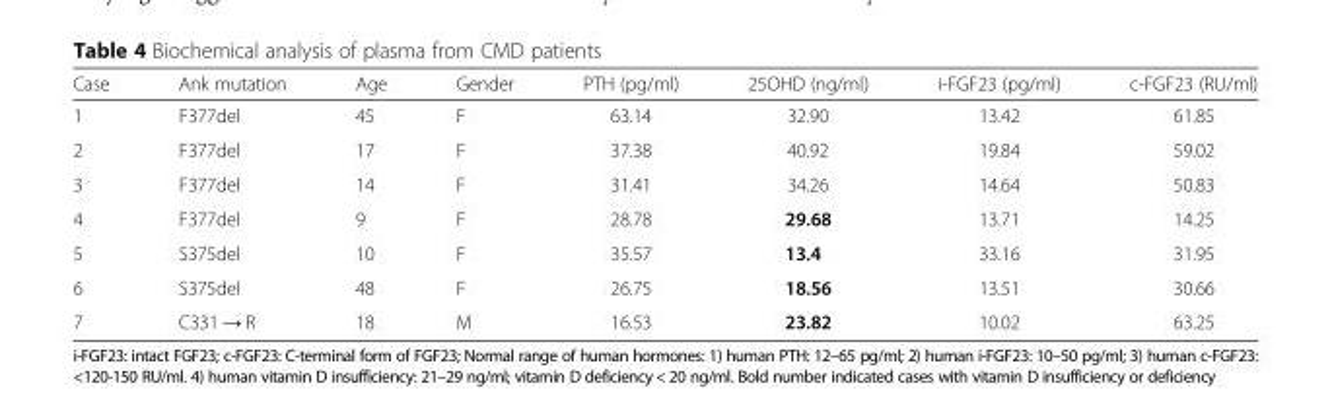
<table><thead><tr><td>Case</td><td>Ank mutation</td><td>Age</td><td>Gender</td><td>PTH (pg/ml)</td><td>25OHD (ng/ml)</td><td>i-FGF23 (pg/ml)</td><td>c-FGF23 (RU/ml)</td></tr></thead><tbody><tr><td>1</td><td>F377del</td><td>45</td><td>F</td><td>63.14</td><td>32.90</td><td>13.42</td><td>61.85</td></tr><tr><td>2</td><td>F377del</td><td>17</td><td>F</td><td>37.38</td><td>40.92</td><td>19.84</td><td>59.02</td></tr><tr><td>3</td><td>F377del</td><td>14</td><td>F</td><td>31.41</td><td>34.26</td><td>14.64</td><td>50.83</td></tr><tr><td>4</td><td>F377del</td><td>9</td><td>F</td><td>28.78</td><td>29.68</td><td>13.71</td><td>14.25</td></tr><tr><td>5</td><td>S375del</td><td>10</td><td>F</td><td>35.57</td><td>13.4</td><td>33.16</td><td>31.95</td></tr><tr><td>6</td><td>S375del</td><td>48</td><td>F</td><td>26.75</td><td>18.56</td><td>13.51</td><td>30.66</td></tr><tr><td>7</td><td>C331 → R</td><td>18</td><td>M</td><td>16.53</td><td>23.82</td><td>10.02</td><td>63.25</td></tr></tbody></table>